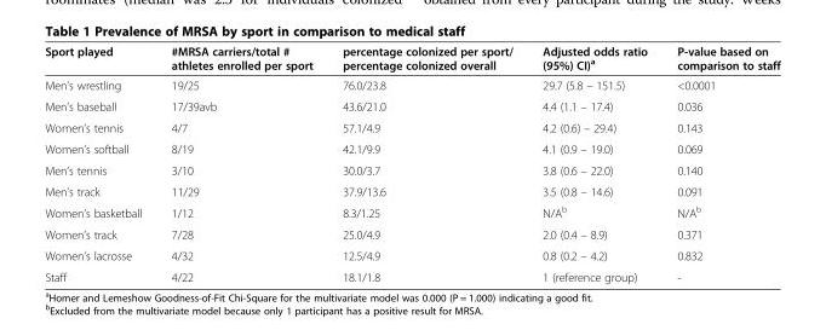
<table><thead><tr><td>Sport played</td><td>#MRSA carriers/total # athletes enrolled per sport</td><td>percentage colonized per sport/ percentage colonized overall</td><td>Adjusted odds ratio (95%) CI)<sup>a</sup></td><td>P-value based on comparison to staff</td></tr></thead><tbody><tr><td>Men’s wrestling</td><td>19/25</td><td>76.0/23.8</td><td>29.7 (5.8 – 151.5)</td><td>&lt;0.0001</td></tr><tr><td>Men’s baseball</td><td>17/39avb</td><td>43.6/21.0</td><td>4.4 (1.1 – 17.4)</td><td>0.036</td></tr><tr><td>Women’s tennis</td><td>4/7</td><td>57.1/4.9</td><td>4.2 (0.6) – 29.4)</td><td>0.143</td></tr><tr><td>Women’s softball</td><td>8/19</td><td>42.1/9.9</td><td>4.1 (0.9 – 19.0)</td><td>0.069</td></tr><tr><td>Men’s tennis</td><td>3/10</td><td>30.0/3.7</td><td>3.8 (0.6 – 22.0)</td><td>0.140</td></tr><tr><td>Men’s track</td><td>11/29</td><td>37.9/13.6</td><td>3.5 (0.8 – 14.6)</td><td>0.091</td></tr><tr><td>Women’s basketball</td><td>1/12</td><td>8.3/1.25</td><td>N/A<sup>b</sup></td><td>N/A<sup>b</sup></td></tr><tr><td>Women’s track</td><td>7/28</td><td>25.0/4.9</td><td>2.0 (0.4 – 8.9)</td><td>0.371</td></tr><tr><td>Women’s lacrosse</td><td>4/32</td><td>12.5/4.9</td><td>0.8 (0.2 – 4.2)</td><td>0.832</td></tr><tr><td>Staff</td><td>4/22</td><td>18.1/1.8</td><td>1 (reference group)</td><td>-</td></tr></tbody></table>